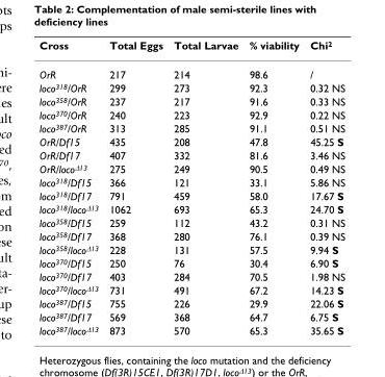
<table><thead><tr><td>Cross</td><td>Total Eggs</td><td>Total Larvae</td><td>% viability</td><td>Chi<sup>2</sup></td></tr></thead><tbody><tr><td>OrR</td><td>217</td><td>214</td><td>98.6</td><td>/</td></tr><tr><td>loco<sup>318</sup>/OrR</td><td>299</td><td>273</td><td>92.3</td><td>0.32 NS</td></tr><tr><td>loco<sup>358</sup>/OrR</td><td>237</td><td>217</td><td>91.6</td><td>0.33 NS</td></tr><tr><td>loco<sup>370</sup>/OrR</td><td>240</td><td>223</td><td>92.9</td><td>0.22 NS</td></tr><tr><td>loco<sup>387</sup>/OrR</td><td>313</td><td>285</td><td>91.1</td><td>0.51 NS</td></tr><tr><td>OrR/Df15</td><td>435</td><td>208</td><td>47.8</td><td>45.25 S</td></tr><tr><td>OrR/Df17</td><td>407</td><td>332</td><td>81.6</td><td>3.46 NS</td></tr><tr><td>OrR/loco<sup>Δ13</sup></td><td>275</td><td>249</td><td>90.5</td><td>0.49 NS</td></tr><tr><td>loco<sup>318</sup>/Df15</td><td>366</td><td>121</td><td>33.1</td><td>5.86 NS</td></tr><tr><td>loco<sup>318</sup>/Df17</td><td>791</td><td>459</td><td>58.0</td><td>17.67 S</td></tr><tr><td>loco<sup>318</sup>/loco<sup>Δ13</sup></td><td>1062</td><td>693</td><td>65.3</td><td>24.70 S</td></tr><tr><td>loco<sup>358</sup>/Df15</td><td>259</td><td>112</td><td>43.2</td><td>0.31 NS</td></tr><tr><td>loco<sup>358</sup>/Df17</td><td>368</td><td>280</td><td>76.1</td><td>0.39 NS</td></tr><tr><td>loco<sup>358</sup>/loco<sup>Δ13</sup></td><td>228</td><td>131</td><td>57.5</td><td>9.94 S</td></tr><tr><td>loco<sup>370</sup>/Df15</td><td>250</td><td>76</td><td>30.4</td><td>6.90 S</td></tr><tr><td>loco<sup>370</sup>/Df17</td><td>403</td><td>284</td><td>70.5</td><td>1.98 NS</td></tr><tr><td>loco<sup>370</sup>/loco<sup>Δ13</sup></td><td>731</td><td>491</td><td>67.2</td><td>14.23 S</td></tr><tr><td>loco<sup>387</sup>/Df15</td><td>755</td><td>226</td><td>29.9</td><td>22.06 S</td></tr><tr><td>loco<sup>387</sup>/Df17</td><td>569</td><td>368</td><td>64.7</td><td>6.75 S</td></tr><tr><td>loco<sup>387</sup>/loco<sup>Δ13</sup></td><td>873</td><td>570</td><td>65.3</td><td>35.65 S</td></tr></tbody></table>